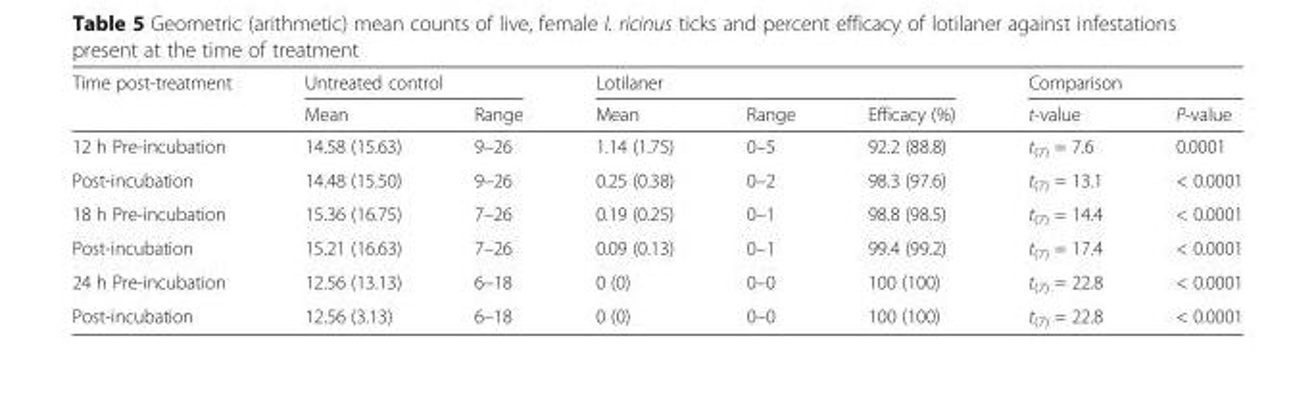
<table><thead><tr><td rowspan="2">Time post-treatment</td><td colspan="2">Untreated control</td><td colspan="3">Lotilaner</td><td colspan="2">Comparison</td></tr><tr><td>Mean</td><td>Range</td><td>Mean</td><td>Range</td><td>Efficacy (%)</td><td>t-value</td><td>P-value</td></tr></thead><tbody><tr><td>12 h Pre-incubation</td><td>14.58 (15.63)</td><td>9–26</td><td>1.14 (1.75)</td><td>0–5</td><td>92.2 (88.8)</td><td>t<sub>(7)</sub> = 7.6</td><td>0.0001</td></tr><tr><td>Post-incubation</td><td>14.48 (15.50)</td><td>9–26</td><td>0.25 (0.38)</td><td>0–2</td><td>98.3 (97.6)</td><td>t<sub>(7)</sub> = 13.1</td><td>&lt; 0.0001</td></tr><tr><td>18 h Pre-incubation</td><td>15.36 (16.75)</td><td>7–26</td><td>0.19 (0.25)</td><td>0–1</td><td>98.8 (98.5)</td><td>t<sub>(7)</sub> = 14.4</td><td>&lt; 0.0001</td></tr><tr><td>Post-incubation</td><td>15.21 (16.63)</td><td>7–26</td><td>0.09 (0.13)</td><td>0–1</td><td>99.4 (99.2)</td><td>t<sub>(7)</sub> = 17.4</td><td>&lt; 0.0001</td></tr><tr><td>24 h Pre-incubation</td><td>12.56 (13.13)</td><td>6–18</td><td>0 (0)</td><td>0–0</td><td>100 (100)</td><td>t<sub>(7)</sub> = 22.8</td><td>&lt; 0.0001</td></tr><tr><td>Post-incubation</td><td>12.56 (3.13)</td><td>6–18</td><td>0 (0)</td><td>0–0</td><td>100 (100)</td><td>t<sub>(7)</sub> = 22.8</td><td>&lt; 0.0001</td></tr></tbody></table>